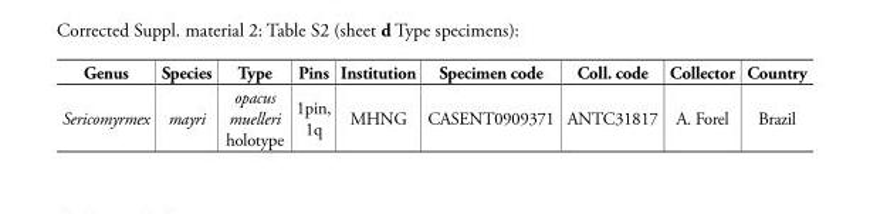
<table><thead><tr><td>Genus</td><td>Species</td><td>Type</td><td>Pins</td><td>Institution</td><td>Specimen code</td><td>Coll. code</td><td>Collector</td><td>Country</td></tr></thead><tbody><tr><td>Sericomyrmex</td><td>mayri</td><td>opacus muelleri holotype</td><td>1pin, 1q</td><td>MHNG</td><td>CASENT0909371</td><td>ANTC31817</td><td>A. Forel</td><td>Brazil</td></tr></tbody></table>